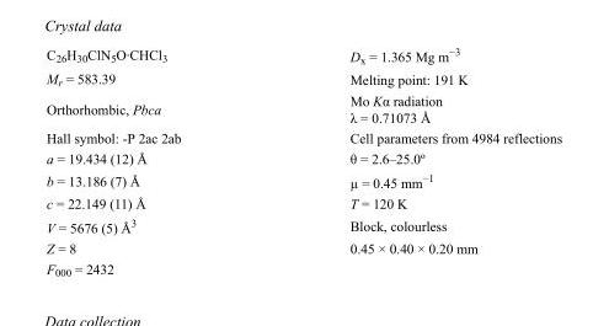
<table><tbody><tr><td>C<sub>26</sub>H<sub>30</sub>ClN<sub>5</sub>O·CHCl<sub>3</sub></td><td>D<sub>x</sub> = 1.365 Mg m<sup>−3</sup></td></tr><tr><td>M<sub>r</sub> = 583.39</td><td>Melting point: 191 K</td></tr><tr><td>Orthorhombic, Pbca</td><td>Mo Kα radiation λ = 0.71073 Å</td></tr><tr><td>Hall symbol: -P 2ac 2ab</td><td>Cell parameters from 4984 reflections</td></tr><tr><td>a = 19.434 (12) Å</td><td>θ = 2.6–25.0º</td></tr><tr><td>b = 13.186 (7) Å</td><td>µ = 0.45 mm<sup>−1</sup></td></tr><tr><td>c = 22.149 (11) Å</td><td>T = 120 K</td></tr><tr><td>V = 5676 (5) Å<sup>3</sup></td><td>Block, colourless</td></tr><tr><td>Z = 8</td><td>0.45 × 0.40 × 0.20 mm</td></tr><tr><td>F000 = 2432</td><td></td></tr></tbody></table>